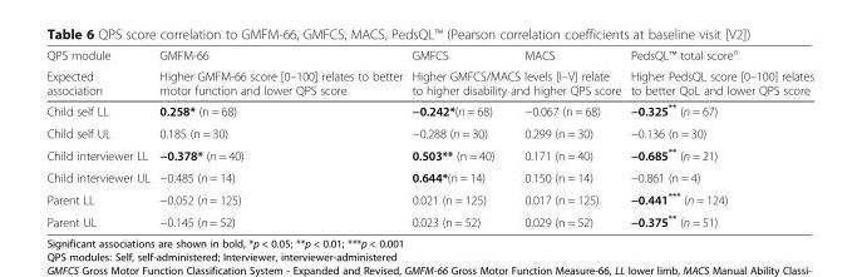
<table><thead><tr><td rowspan="2">QPS module Expected association</td><td rowspan="2">GMFM-66 Higher GMFM-66 score [0–100] relates to better motor function and lower QPS score</td><td>GMFCS</td><td>MACS</td><td rowspan="2">PedsQL™ total score<sup>a</sup> Higher PedsQL score [0–100] relates to better QoL and lower QPS score</td></tr><tr><td colspan="2">Higher GMFCS/MACS levels [I–V] relate to higher disability and higher QPS score</td></tr></thead><tbody><tr><td>Child self LL</td><td>0.258* (n = 68)</td><td>−0.242*(n = 68)</td><td>−0.067 (n = 68)</td><td>−0.325** (n = 67)</td></tr><tr><td>Child self UL</td><td>0.185 (n = 30)</td><td>−0.288 (n = 30)</td><td>0.299 (n = 30)</td><td>−0.136 (n = 30)</td></tr><tr><td>Child interviewer LL</td><td>−0.378* (n = 40)</td><td>0.503** (n = 40)</td><td>0.171 (n = 40)</td><td>−0.685** (n = 21)</td></tr><tr><td>Child interviewer UL</td><td>−0.485 (n = 14)</td><td>0.644*(n = 14)</td><td>0.150 (n = 14)</td><td>−0.861 (n = 4)</td></tr><tr><td>Parent LL</td><td>−0.052 (n = 125)</td><td>0.021 (n = 125)</td><td>0.017 (n = 125)</td><td>−0.441*** (n = 124)</td></tr><tr><td>Parent UL</td><td>−0.145 (n = 52)</td><td>0.023 (n = 52)</td><td>0.029 (n = 52)</td><td>−0.375** (n = 51)</td></tr></tbody></table>